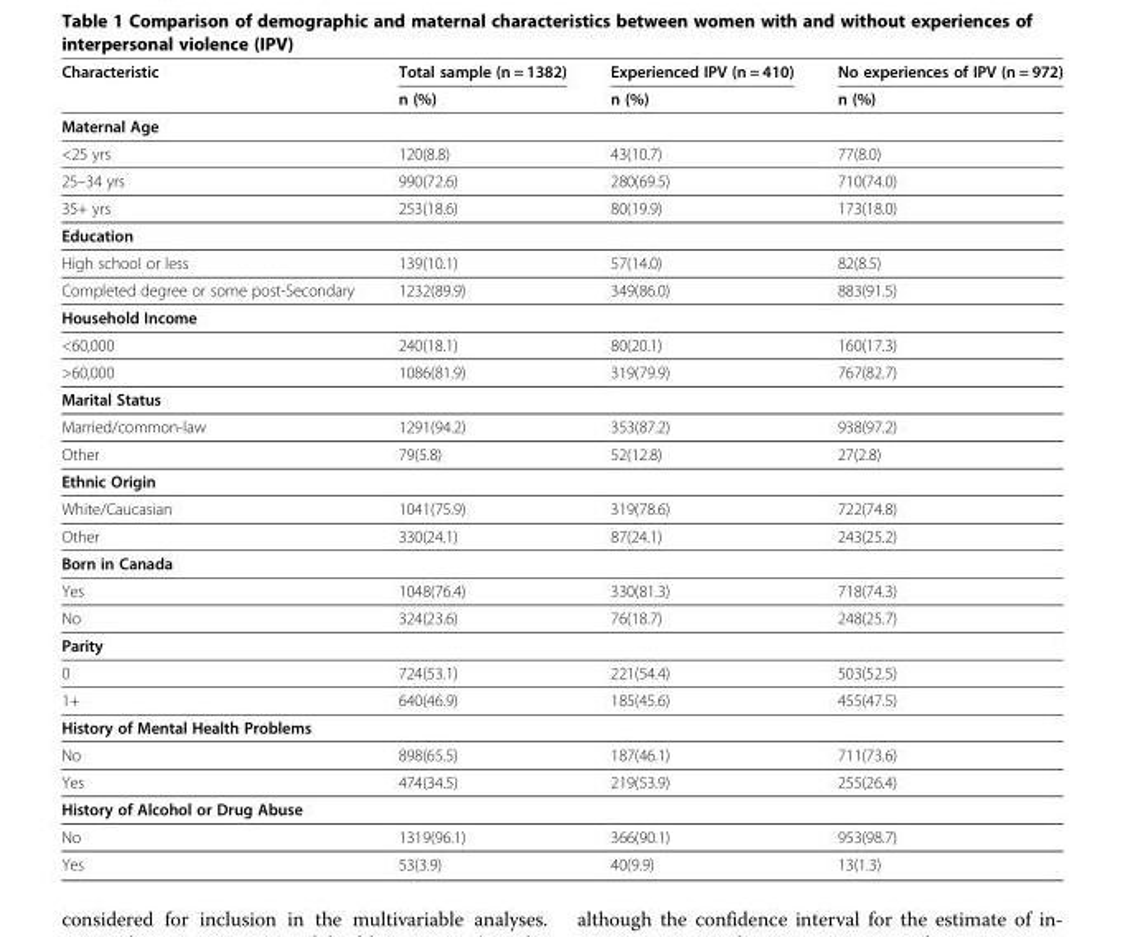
<table><thead><tr><td rowspan="2">Characteristic</td><td rowspan="2">Total sample (n = 1382) n (%)</td><td rowspan="2">Experienced IPV (n = 410) n (%)</td><td rowspan="2">No experiences of IPV (n = 972) n (%)</td></tr><tr></tr></thead><tbody><tr><td colspan="4">Maternal Age</td></tr><tr><td>&lt;25 yrs</td><td>120(8.8)</td><td>43(10.7)</td><td>77(8.0)</td></tr><tr><td>25–34 yrs</td><td>990(72.6)</td><td>280(69.5)</td><td>710(74.0)</td></tr><tr><td>35+ yrs</td><td>253(18.6)</td><td>80(19.9)</td><td>173(18.0)</td></tr><tr><td colspan="4">Education</td></tr><tr><td>High school or less</td><td>139(10.1)</td><td>57(14.0)</td><td>82(8.5)</td></tr><tr><td>Completed degree or some post-Secondary</td><td>1232(89.9)</td><td>349(86.0)</td><td>883(91.5)</td></tr><tr><td colspan="4">Household Income</td></tr><tr><td>&lt;60,000</td><td>240(18.1)</td><td>80(20.1)</td><td>160(17.3)</td></tr><tr><td>&gt;60,000</td><td>1086(81.9)</td><td>319(79.9)</td><td>767(82.7)</td></tr><tr><td colspan="4">Marital Status</td></tr><tr><td>Married/common-law</td><td>1291(94.2)</td><td>353(87.2)</td><td>938(97.2)</td></tr><tr><td>Other</td><td>79(5.8)</td><td>52(12.8)</td><td>27(2.8)</td></tr><tr><td colspan="4">Ethnic Origin</td></tr><tr><td>White/Caucasian</td><td>1041(75.9)</td><td>319(78.6)</td><td>722(74.8)</td></tr><tr><td>Other</td><td>330(24.1)</td><td>87(24.1)</td><td>243(25.2)</td></tr><tr><td colspan="4">Born in Canada</td></tr><tr><td>Yes</td><td>1048(76.4)</td><td>330(81.3)</td><td>718(74.3)</td></tr><tr><td>No</td><td>324(23.6)</td><td>76(18.7)</td><td>248(25.7)</td></tr><tr><td colspan="4">Parity</td></tr><tr><td>0</td><td>724(53.1)</td><td>221(54.4)</td><td>503(52.5)</td></tr><tr><td>1+</td><td>640(46.9)</td><td>185(45.6)</td><td>455(47.5)</td></tr><tr><td colspan="4">History of Mental Health Problems</td></tr><tr><td>No</td><td>898(65.5)</td><td>187(46.1)</td><td>711(73.6)</td></tr><tr><td>Yes</td><td>474(34.5)</td><td>219(53.9)</td><td>255(26.4)</td></tr><tr><td colspan="4">History of Alcohol or Drug Abuse</td></tr><tr><td>No</td><td>1319(96.1)</td><td>366(90.1)</td><td>953(98.7)</td></tr><tr><td>Yes</td><td>53(3.9)</td><td>40(9.9)</td><td>13(1.3)</td></tr></tbody></table>